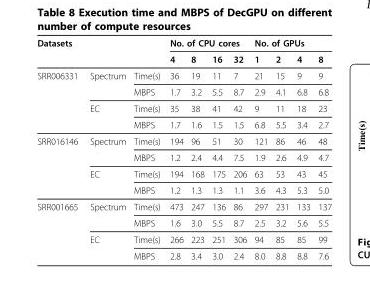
<table><thead><tr><td colspan="3">Datasets</td><td colspan="4">No. of CPU cores</td><td colspan="4">No. of GPUs</td></tr><tr><td></td><td></td><td></td><td>4</td><td>8</td><td>16</td><td>32</td><td>1</td><td>2</td><td>4</td><td>8</td></tr></thead><tbody><tr><td rowspan="4">SRR006331</td><td>Spectrum</td><td>Time(s)</td><td>36</td><td>19</td><td>11</td><td>7</td><td>21</td><td>15</td><td>9</td><td>9</td></tr><tr><td></td><td>MBPS</td><td>1.7</td><td>3.2</td><td>5.5</td><td>8.7</td><td>2.9</td><td>4.1</td><td>6.8</td><td>6.8</td></tr><tr><td>EC</td><td>Time(s)</td><td>35</td><td>38</td><td>41</td><td>42</td><td>9</td><td>11</td><td>18</td><td>23</td></tr><tr><td></td><td>MBPS</td><td>1.7</td><td>1.6</td><td>1.5</td><td>1.5</td><td>6.8</td><td>5.5</td><td>3.4</td><td>2.7</td></tr><tr><td rowspan="4">SRR016146</td><td>Spectrum</td><td>Time(s)</td><td>194</td><td>96</td><td>51</td><td>30</td><td>121</td><td>86</td><td>46</td><td>48</td></tr><tr><td></td><td>MBPS</td><td>1.2</td><td>2.4</td><td>4.4</td><td>7.5</td><td>1.9</td><td>2.6</td><td>4.9</td><td>4.7</td></tr><tr><td>EC</td><td>Time(s)</td><td>194</td><td>168</td><td>175</td><td>206</td><td>63</td><td>53</td><td>43</td><td>45</td></tr><tr><td></td><td>MBPS</td><td>1.2</td><td>1.3</td><td>1.3</td><td>1.1</td><td>3.6</td><td>4.3</td><td>5.3</td><td>5.0</td></tr><tr><td rowspan="4">SRR001665</td><td>Spectrum</td><td>Time(s)</td><td>473</td><td>247</td><td>136</td><td>86</td><td>297</td><td>231</td><td>133</td><td>137</td></tr><tr><td></td><td>MBPS</td><td>1.6</td><td>3.0</td><td>5.5</td><td>8.7</td><td>2.5</td><td>3.2</td><td>5.6</td><td>5.5</td></tr><tr><td>EC</td><td>Time(s)</td><td>266</td><td>223</td><td>251</td><td>306</td><td>94</td><td>85</td><td>85</td><td>99</td></tr><tr><td></td><td>MBPS</td><td>2.8</td><td>3.4</td><td>3.0</td><td>2.4</td><td>8.0</td><td>8.8</td><td>8.8</td><td>7.6</td></tr></tbody></table>